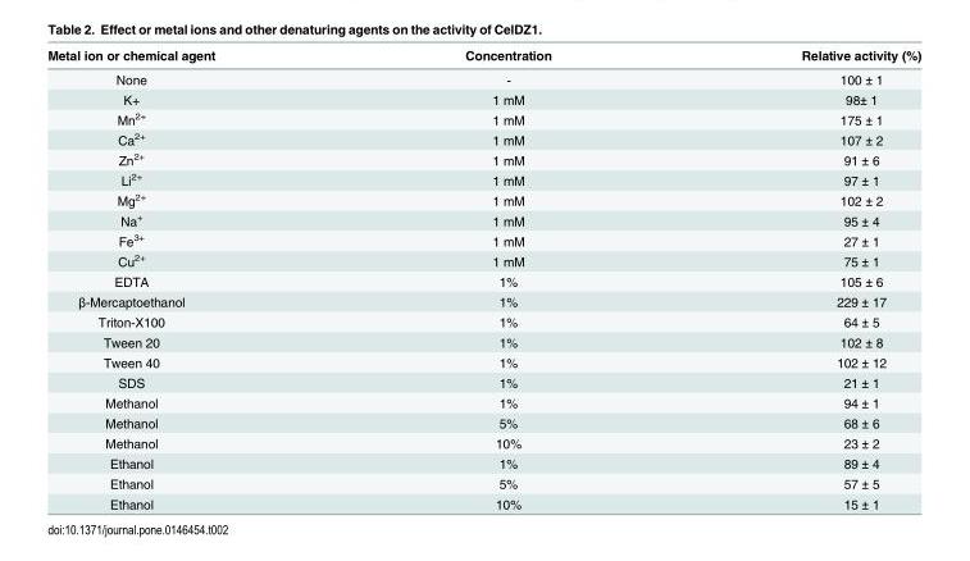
<table><thead><tr><td>Metal ion or chemical agent</td><td>Concentration</td><td>Relative activity (%)</td></tr></thead><tbody><tr><td>None</td><td>-</td><td>100 ± 1</td></tr><tr><td>K+</td><td>1 mM</td><td>98± 1</td></tr><tr><td>Mn<sup>2+</sup></td><td>1 mM</td><td>175 ± 1</td></tr><tr><td>Ca<sup>2+</sup></td><td>1 mM</td><td>107 ± 2</td></tr><tr><td>Zn<sup>2+</sup></td><td>1 mM</td><td>91 ± 6</td></tr><tr><td>Li<sup>2+</sup></td><td>1 mM</td><td>97 ± 1</td></tr><tr><td>Mg<sup>2+</sup></td><td>1 mM</td><td>102 ± 2</td></tr><tr><td>Na<sup>+</sup></td><td>1 mM</td><td>95 ± 4</td></tr><tr><td>Fe<sup>3+</sup></td><td>1 mM</td><td>27 ± 1</td></tr><tr><td>Cu<sup>2+</sup></td><td>1 mM</td><td>75 ± 1</td></tr><tr><td>EDTA</td><td>1%</td><td>105 ± 6</td></tr><tr><td>β-Mercaptoethanol</td><td>1%</td><td>229 ± 17</td></tr><tr><td>Triton-X100</td><td>1%</td><td>64 ± 5</td></tr><tr><td>Tween 20</td><td>1%</td><td>102 ± 8</td></tr><tr><td>Tween 40</td><td>1%</td><td>102 ± 12</td></tr><tr><td>SDS</td><td>1%</td><td>21 ± 1</td></tr><tr><td>Methanol</td><td>1%</td><td>94 ± 1</td></tr><tr><td>Methanol</td><td>5%</td><td>68 ± 6</td></tr><tr><td>Methanol</td><td>10%</td><td>23 ± 2</td></tr><tr><td>Ethanol</td><td>1%</td><td>89 ± 4</td></tr><tr><td>Ethanol</td><td>5%</td><td>57 ± 5</td></tr><tr><td>Ethanol</td><td>10%</td><td>15 ± 1</td></tr></tbody></table>